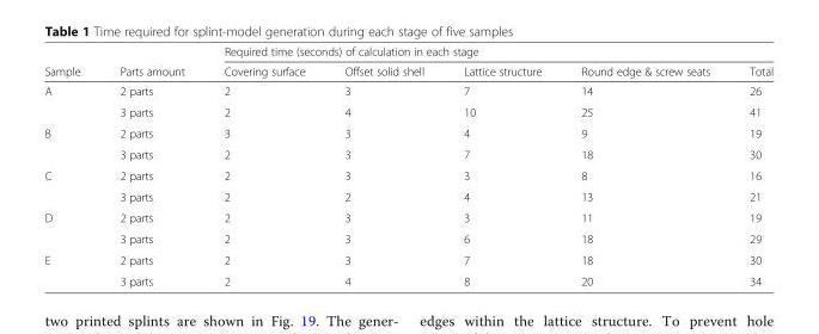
<table><thead><tr><td rowspan="2">Sample</td><td rowspan="2">Parts amount</td><td colspan="5">Required time (seconds) of calculation in each stage</td></tr><tr><td>Covering surface</td><td>Offset solid shell</td><td>Lattice structure</td><td>Round edge &amp; screw seats</td><td>Total</td></tr></thead><tbody><tr><td rowspan="2">A</td><td>2 parts</td><td>2</td><td>3</td><td>7</td><td>14</td><td>26</td></tr><tr><td>3 parts</td><td>2</td><td>4</td><td>10</td><td>25</td><td>41</td></tr><tr><td rowspan="2">B</td><td>2 parts</td><td>3</td><td>3</td><td>4</td><td>9</td><td>19</td></tr><tr><td>3 parts</td><td>2</td><td>3</td><td>7</td><td>18</td><td>30</td></tr><tr><td rowspan="2">C</td><td>2 parts</td><td>2</td><td>3</td><td>3</td><td>8</td><td>16</td></tr><tr><td>3 parts</td><td>2</td><td>2</td><td>4</td><td>13</td><td>21</td></tr><tr><td rowspan="2">D</td><td>2 parts</td><td>2</td><td>3</td><td>3</td><td>11</td><td>19</td></tr><tr><td>3 parts</td><td>2</td><td>3</td><td>6</td><td>18</td><td>29</td></tr><tr><td rowspan="2">E</td><td>2 parts</td><td>2</td><td>3</td><td>7</td><td>18</td><td>30</td></tr><tr><td>3 parts</td><td>2</td><td>4</td><td>8</td><td>20</td><td>34</td></tr></tbody></table>